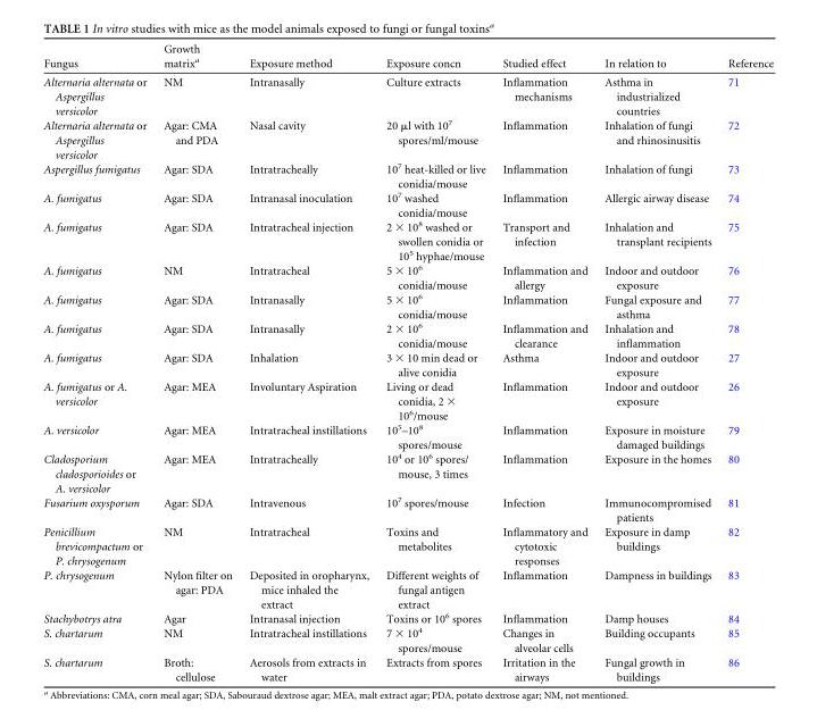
<table><thead><tr><td>Fungus</td><td>Growth matrix<sup>a</sup></td><td>Exposure method</td><td>Exposure concn</td><td>Studied effect</td><td>In relation to</td><td>Reference</td></tr></thead><tbody><tr><td>Alternaria alternata or Aspergillus versicolor</td><td>NM</td><td>Intranasally</td><td>Culture extracts</td><td>Inflammation mechanisms</td><td>Asthma in industrialized countries</td><td>71</td></tr><tr><td>Alternaria alternata or Aspergillus versicolor</td><td>Agar: CMA and PDA</td><td>Nasal cavity</td><td>20 μl with 10<sup>7</sup> spores/ml/mouse</td><td>Inflammation</td><td>Inhalation of fungi and rhinosinusitis</td><td>72</td></tr><tr><td>Aspergillus fumigatus</td><td>Agar: SDA</td><td>Intratracheally</td><td>10<sup>7</sup> heat-killed or live conidia/mouse</td><td>Inflammation</td><td>Inhalation of fungi</td><td>73</td></tr><tr><td>A. fumigatus</td><td>Agar: SDA</td><td>Intranasal inoculation</td><td>10<sup>7</sup> washed conidia/mouse</td><td>Inflammation</td><td>Allergic airway disease</td><td>74</td></tr><tr><td>A. fumigatus</td><td>Agar: SDA</td><td>Intratracheal injection</td><td>2 × 10<sup>8</sup> washed or swollen conidia or 10<sup>5</sup> hyphae/mouse</td><td>Transport and infection</td><td>Inhalation and transplant recipients</td><td>75</td></tr><tr><td>A. fumigatus</td><td>NM</td><td>Intratracheal</td><td>5 × 10<sup>6</sup> conidia/mouse</td><td>Inflammation and allergy</td><td>Indoor and outdoor exposure</td><td>76</td></tr><tr><td>A. fumigatus</td><td>Agar: SDA</td><td>Intranasally</td><td>5 × 10<sup>6</sup> conidia/mouse</td><td>Inflammation</td><td>Fungal exposure and asthma</td><td>77</td></tr><tr><td>A. fumigatus</td><td>Agar: SDA</td><td>Intranasally</td><td>2 × 10<sup>6</sup> conidia/mouse</td><td>Inflammation and clearance</td><td>Inhalation and inflammation</td><td>78</td></tr><tr><td>A. fumigatus</td><td>Agar: SDA</td><td>Inhalation</td><td>3 × 10 min dead or alive conidia</td><td>Asthma</td><td>Indoor and outdoor exposure</td><td>27</td></tr><tr><td>A. fumigatus or A. versicolor</td><td>Agar: MEA</td><td>Involuntary Aspiration</td><td>Living or dead conidia, 2 × 10<sup>6</sup>/mouse</td><td>Inflammation</td><td>Indoor and outdoor exposure</td><td>26</td></tr><tr><td>A. versicolor</td><td>Agar: MEA</td><td>Intratracheal instillations</td><td>10<sup>5</sup>–10<sup>8</sup> spores/mouse</td><td>Inflammation</td><td>Exposure in moisture damaged buildings</td><td>79</td></tr><tr><td>Cladosporium cladosporioides or A. versicolor</td><td>Agar: MEA</td><td>Intratracheally</td><td>10<sup>4</sup> or 10<sup>6</sup> spores/ mouse, 3 times</td><td>Inflammation</td><td>Exposure in the homes</td><td>80</td></tr><tr><td>Fusarium oxysporum</td><td>Agar: SDA</td><td>Intravenous</td><td>10<sup>7</sup> spores/mouse</td><td>Infection</td><td>Immunocompromised patients</td><td>81</td></tr><tr><td>Penicillium brevicompactum or P. chrysogenum</td><td>NM</td><td>Intratracheal</td><td>Toxins and metabolites</td><td>Inflammatory and cytotoxic responses</td><td>Exposure in damp buildings</td><td>82</td></tr><tr><td>P. chrysogenum</td><td>Nylon filter on agar: PDA</td><td>Deposited in oropharynx, mice inhaled the extract</td><td>Different weights of fungal antigen extract</td><td>Inflammation</td><td>Dampness in buildings</td><td>83</td></tr><tr><td>Stachybotrys atra</td><td>Agar</td><td>Intranasal injection</td><td>Toxins or 10<sup>6</sup> spores</td><td>Inflammation</td><td>Damp houses</td><td>84</td></tr><tr><td>S. chartarum</td><td>NM</td><td>Intratracheal instillations</td><td>7 × 10<sup>4</sup> spores/mouse</td><td>Changes in alveolar cells</td><td>Building occupants</td><td>85</td></tr><tr><td>S. chartarum</td><td>Broth: cellulose</td><td>Aerosols from extracts in water</td><td>Extracts from spores</td><td>Irritation in the airways</td><td>Fungal growth in buildings</td><td>86</td></tr></tbody></table>